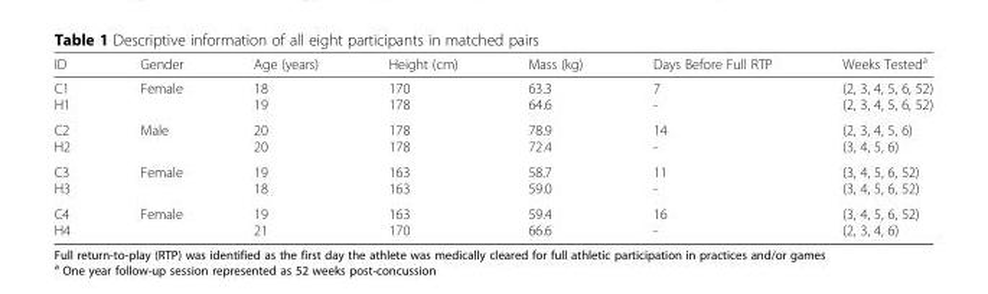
<table><thead><tr><td>ID</td><td>Gender</td><td>Age (years)</td><td>Height (cm)</td><td>Mass (kg)</td><td>Days Before Full RTP</td><td>Weeks Tested<sup>a</sup></td></tr></thead><tbody><tr><td>C1 H1</td><td>Female</td><td>18 19</td><td>170 178</td><td>63.3 64.6</td><td>7 -</td><td>(2, 3, 4, 5, 6, 52) (2, 3, 4, 5, 6, 52)</td></tr><tr><td>C2 H2</td><td>Male</td><td>20 20</td><td>178 178</td><td>78.9 72.4</td><td>14 -</td><td>(2, 3, 4, 5, 6) (3, 4, 5, 6)</td></tr><tr><td>C3 H3</td><td>Female</td><td>19 18</td><td>163 163</td><td>58.7 59.0</td><td>11 -</td><td>(3, 4, 5, 6, 52) (3, 4, 5, 6, 52)</td></tr><tr><td>C4 H4</td><td>Female</td><td>19 21</td><td>163 170</td><td>59.4 66.6</td><td>16 -</td><td>(3, 4, 5, 6, 52) (2, 3, 4, 6)</td></tr></tbody></table>